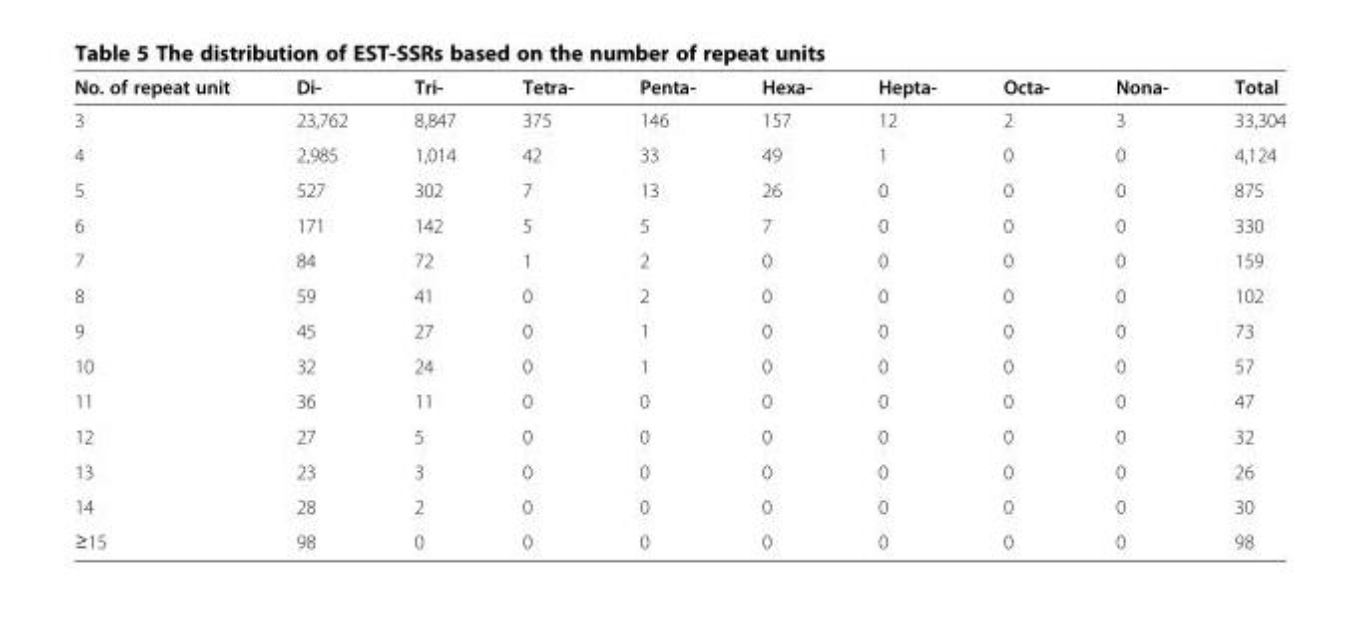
<table><thead><tr><td>No. of repeat unit</td><td>Di-</td><td>Tri-</td><td>Tetra-</td><td>Penta-</td><td>Hexa-</td><td>Hepta-</td><td>Octa-</td><td>Nona-</td><td>Total</td></tr></thead><tbody><tr><td>3</td><td>23,762</td><td>8,847</td><td>375</td><td>146</td><td>157</td><td>12</td><td>2</td><td>3</td><td>33,304</td></tr><tr><td>4</td><td>2,985</td><td>1,014</td><td>42</td><td>33</td><td>49</td><td>1</td><td>0</td><td>0</td><td>4,124</td></tr><tr><td>5</td><td>527</td><td>302</td><td>7</td><td>13</td><td>26</td><td>0</td><td>0</td><td>0</td><td>875</td></tr><tr><td>6</td><td>171</td><td>142</td><td>5</td><td>5</td><td>7</td><td>0</td><td>0</td><td>0</td><td>330</td></tr><tr><td>7</td><td>84</td><td>72</td><td>1</td><td>2</td><td>0</td><td>0</td><td>0</td><td>0</td><td>159</td></tr><tr><td>8</td><td>59</td><td>41</td><td>0</td><td>2</td><td>0</td><td>0</td><td>0</td><td>0</td><td>102</td></tr><tr><td>9</td><td>45</td><td>27</td><td>0</td><td>1</td><td>0</td><td>0</td><td>0</td><td>0</td><td>73</td></tr><tr><td>10</td><td>32</td><td>24</td><td>0</td><td>1</td><td>0</td><td>0</td><td>0</td><td>0</td><td>57</td></tr><tr><td>11</td><td>36</td><td>11</td><td>0</td><td>0</td><td>0</td><td>0</td><td>0</td><td>0</td><td>47</td></tr><tr><td>12</td><td>27</td><td>5</td><td>0</td><td>0</td><td>0</td><td>0</td><td>0</td><td>0</td><td>32</td></tr><tr><td>13</td><td>23</td><td>3</td><td>0</td><td>0</td><td>0</td><td>0</td><td>0</td><td>0</td><td>26</td></tr><tr><td>14</td><td>28</td><td>2</td><td>0</td><td>0</td><td>0</td><td>0</td><td>0</td><td>0</td><td>30</td></tr><tr><td>≥15</td><td>98</td><td>0</td><td>0</td><td>0</td><td>0</td><td>0</td><td>0</td><td>0</td><td>98</td></tr></tbody></table>